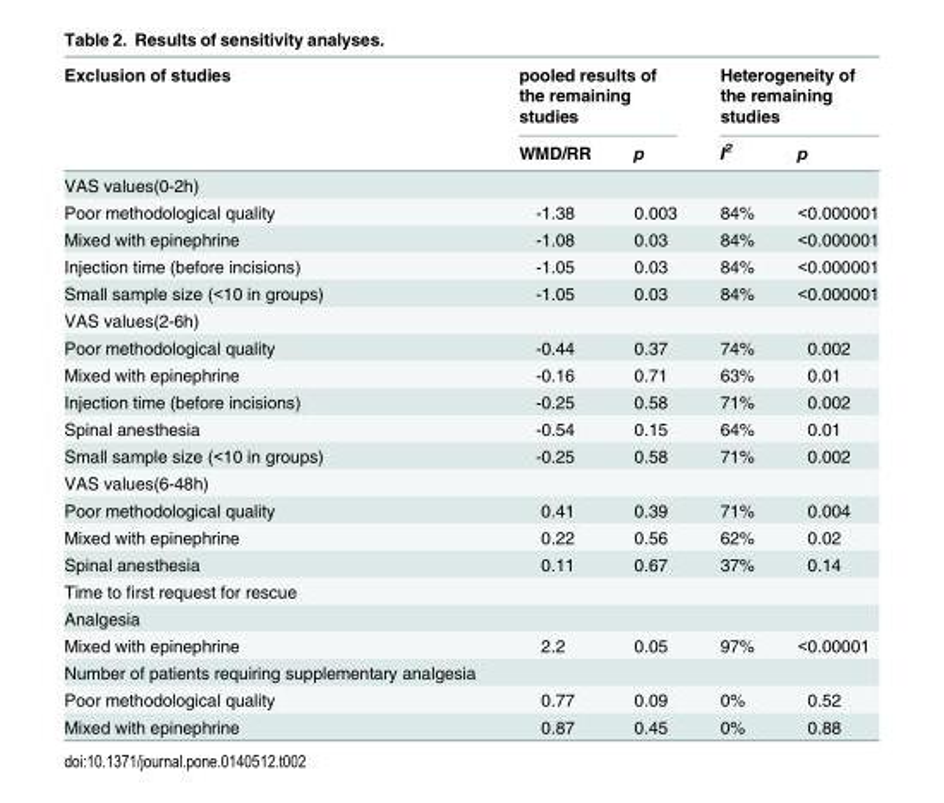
<table><thead><tr><td rowspan="2">Exclusion of studies</td><td colspan="2">pooled results of the remaining studies</td><td colspan="2">Heterogeneity of the remaining studies</td></tr><tr><td>WMD/RR</td><td>p</td><td>I<sup>2</sup></td><td>p</td></tr></thead><tbody><tr><td colspan="5">VAS values(0-2h)</td></tr><tr><td>Poor methodological quality</td><td>-1.38</td><td>0.003</td><td>84%</td><td>&lt;0.000001</td></tr><tr><td>Mixed with epinephrine</td><td>-1.08</td><td>0.03</td><td>84%</td><td>&lt;0.000001</td></tr><tr><td>Injection time (before incisions)</td><td>-1.05</td><td>0.03</td><td>84%</td><td>&lt;0.000001</td></tr><tr><td>Small sample size (&lt;10 in groups)</td><td>-1.05</td><td>0.03</td><td>84%</td><td>&lt;0.000001</td></tr><tr><td colspan="5">VAS values(2-6h)</td></tr><tr><td>Poor methodological quality</td><td>-0.44</td><td>0.37</td><td>74%</td><td>0.002</td></tr><tr><td>Mixed with epinephrine</td><td>-0.16</td><td>0.71</td><td>63%</td><td>0.01</td></tr><tr><td>Injection time (before incisions)</td><td>-0.25</td><td>0.58</td><td>71%</td><td>0.002</td></tr><tr><td>Spinal anesthesia</td><td>-0.54</td><td>0.15</td><td>64%</td><td>0.01</td></tr><tr><td>Small sample size (&lt;10 in groups)</td><td>-0.25</td><td>0.58</td><td>71%</td><td>0.002</td></tr><tr><td colspan="5">VAS values(6-48h)</td></tr><tr><td>Poor methodological quality</td><td>0.41</td><td>0.39</td><td>71%</td><td>0.004</td></tr><tr><td>Mixed with epinephrine</td><td>0.22</td><td>0.56</td><td>62%</td><td>0.02</td></tr><tr><td>Spinal anesthesia</td><td>0.11</td><td>0.67</td><td>37%</td><td>0.14</td></tr><tr><td colspan="5">Time to first request for rescue</td></tr><tr><td colspan="5">Analgesia</td></tr><tr><td>Mixed with epinephrine</td><td>2.2</td><td>0.05</td><td>97%</td><td>&lt;0.00001</td></tr><tr><td colspan="5">Number of patients requiring supplementary analgesia</td></tr><tr><td>Poor methodological quality</td><td>0.77</td><td>0.09</td><td>0%</td><td>0.52</td></tr><tr><td>Mixed with epinephrine</td><td>0.87</td><td>0.45</td><td>0%</td><td>0.88</td></tr></tbody></table>